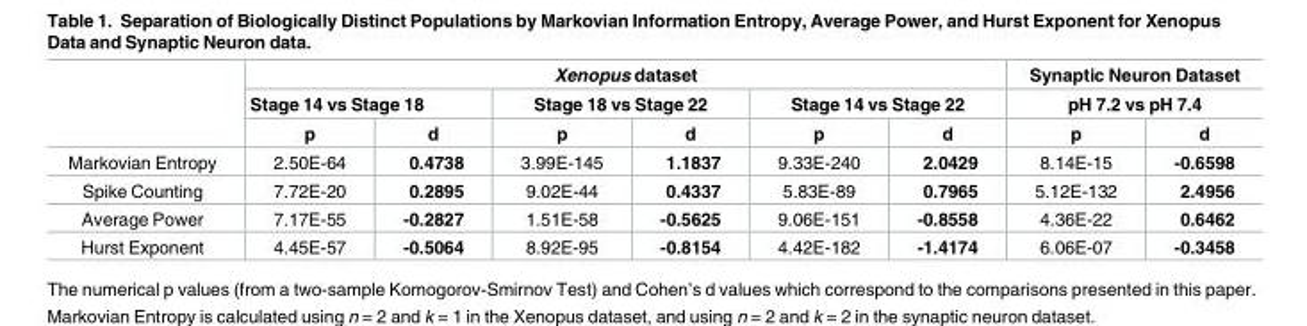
<table><thead><tr><td rowspan="3"></td><td colspan="6">Xenopus dataset</td><td rowspan="2" colspan="2">Synaptic Neuron Dataset pH 7.2 vs pH 7.4</td></tr><tr><td colspan="2">Stage 14 vs Stage 18</td><td colspan="2">Stage 18 vs Stage 22</td><td colspan="2">Stage 14 vs Stage 22</td></tr><tr><td>p</td><td>d</td><td>p</td><td>d</td><td>p</td><td>d</td><td>p</td><td>d</td></tr></thead><tbody><tr><td>Markovian Entropy</td><td>2.50E-64</td><td>0.4738</td><td>3.99E-145</td><td>1.1837</td><td>9.33E-240</td><td>2.0429</td><td>8.14E-15</td><td>-0.6598</td></tr><tr><td>Spike Counting</td><td>7.72E-20</td><td>0.2895</td><td>9.02E-44</td><td>0.4337</td><td>5.83E-89</td><td>0.7965</td><td>5.12E-132</td><td>2.4956</td></tr><tr><td>Average Power</td><td>7.17E-55</td><td>-0.2827</td><td>1.51E-58</td><td>-0.5625</td><td>9.06E-151</td><td>-0.8558</td><td>4.36E-22</td><td>0.6462</td></tr><tr><td>Hurst Exponent</td><td>4.45E-57</td><td>-0.5064</td><td>8.92E-95</td><td>-0.8154</td><td>4.42E-182</td><td>-1.4174</td><td>6.06E-07</td><td>-0.3458</td></tr></tbody></table>